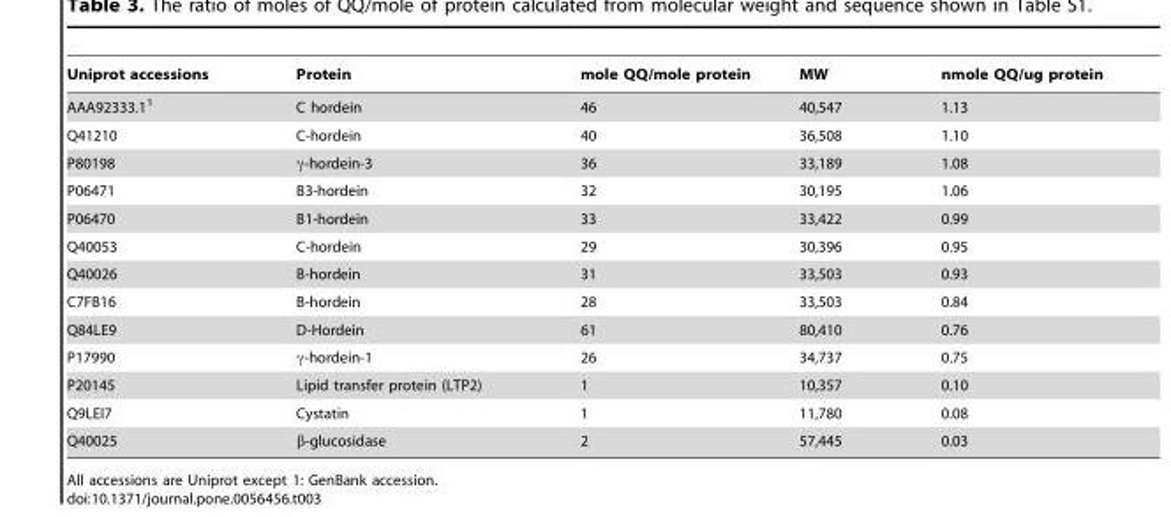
<table><thead><tr><td>Uniprot accessions</td><td>Protein</td><td>mole QQ/mole protein</td><td>MW</td><td>nmole QQ/ug protein</td></tr></thead><tbody><tr><td>AAA92333.1<sup>1</sup></td><td>C hordein</td><td>46</td><td>40,547</td><td>1.13</td></tr><tr><td>Q41210</td><td>C-hordein</td><td>40</td><td>36,508</td><td>1.10</td></tr><tr><td>P80198</td><td>γ-hordein-3</td><td>36</td><td>33,189</td><td>1.08</td></tr><tr><td>P06471</td><td>B3-hordein</td><td>32</td><td>30,195</td><td>1.06</td></tr><tr><td>P06470</td><td>B1-hordein</td><td>33</td><td>33,422</td><td>0.99</td></tr><tr><td>Q40053</td><td>C-hordein</td><td>29</td><td>30,396</td><td>0.95</td></tr><tr><td>Q40026</td><td>B-hordein</td><td>31</td><td>33,503</td><td>0.93</td></tr><tr><td>C7FB16</td><td>B-hordein</td><td>28</td><td>33,503</td><td>0.84</td></tr><tr><td>Q84LE9</td><td>D-Hordein</td><td>61</td><td>80,410</td><td>0.76</td></tr><tr><td>P17990</td><td>γ-hordein-1</td><td>26</td><td>34,737</td><td>0.75</td></tr><tr><td>P20145</td><td>Lipid transfer protein (LTP2)</td><td>1</td><td>10,357</td><td>0.10</td></tr><tr><td>Q9LEI7</td><td>Cystatin</td><td>1</td><td>11,780</td><td>0.08</td></tr><tr><td>Q40025</td><td>β-glucosidase</td><td>2</td><td>57,445</td><td>0.03</td></tr></tbody></table>